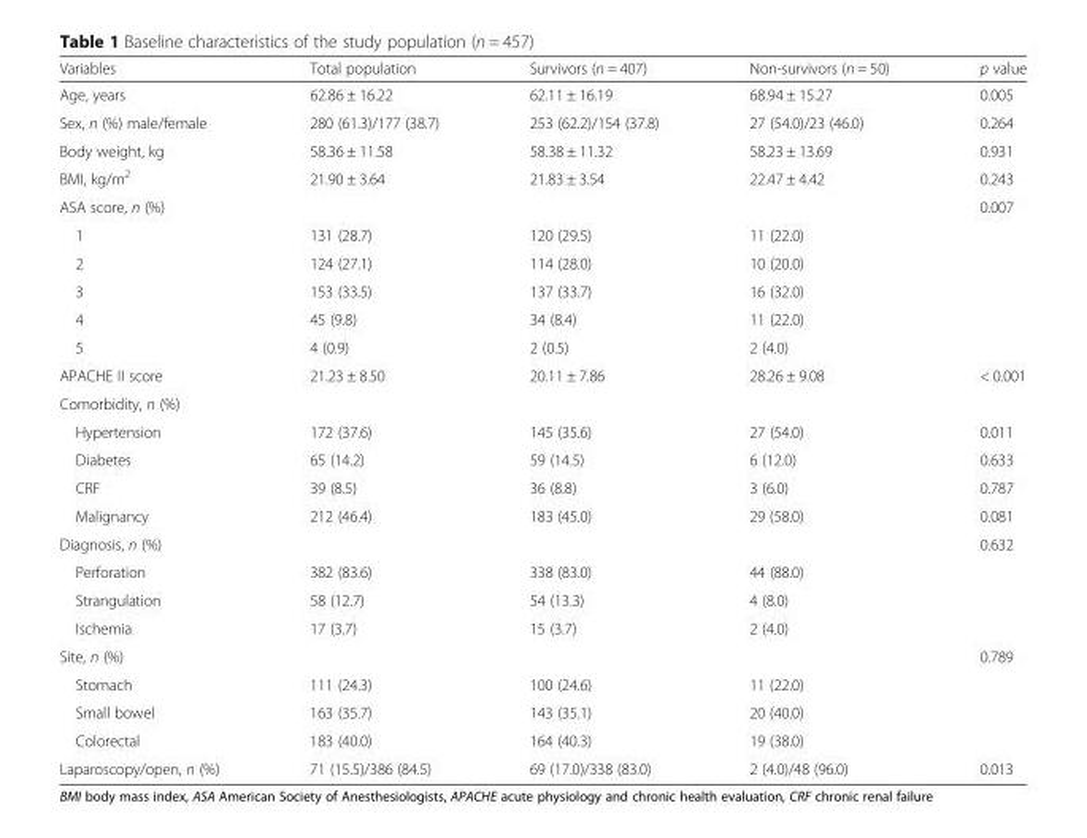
<table><thead><tr><td>Variables</td><td>Total population</td><td>Survivors (n = 407)</td><td>Non-survivors (n = 50)</td><td>p value</td></tr></thead><tbody><tr><td>Age, years</td><td>62.86 ± 16.22</td><td>62.11 ± 16.19</td><td>68.94 ± 15.27</td><td>0.005</td></tr><tr><td>Sex, n (%) male/female</td><td>280 (61.3)/177 (38.7)</td><td>253 (62.2)/154 (37.8)</td><td>27 (54.0)/23 (46.0)</td><td>0.264</td></tr><tr><td>Body weight, kg</td><td>58.36 ± 11.58</td><td>58.38 ± 11.32</td><td>58.23 ± 13.69</td><td>0.931</td></tr><tr><td>BMI, kg/m<sup>2</sup></td><td>21.90 ± 3.64</td><td>21.83 ± 3.54</td><td>22.47 ± 4.42</td><td>0.243</td></tr><tr><td>ASA score, n (%)</td><td></td><td></td><td></td><td>0.007</td></tr><tr><td>1</td><td>131 (28.7)</td><td>120 (29.5)</td><td>11 (22.0)</td><td></td></tr><tr><td>2</td><td>124 (27.1)</td><td>114 (28.0)</td><td>10 (20.0)</td><td></td></tr><tr><td>3</td><td>153 (33.5)</td><td>137 (33.7)</td><td>16 (32.0)</td><td></td></tr><tr><td>4</td><td>45 (9.8)</td><td>34 (8.4)</td><td>11 (22.0)</td><td></td></tr><tr><td>5</td><td>4 (0.9)</td><td>2 (0.5)</td><td>2 (4.0)</td><td></td></tr><tr><td>APACHE II score</td><td>21.23 ± 8.50</td><td>20.11 ± 7.86</td><td>28.26 ± 9.08</td><td>&lt; 0.001</td></tr><tr><td colspan="5">Comorbidity, n (%)</td></tr><tr><td>Hypertension</td><td>172 (37.6)</td><td>145 (35.6)</td><td>27 (54.0)</td><td>0.011</td></tr><tr><td>Diabetes</td><td>65 (14.2)</td><td>59 (14.5)</td><td>6 (12.0)</td><td>0.633</td></tr><tr><td>CRF</td><td>39 (8.5)</td><td>36 (8.8)</td><td>3 (6.0)</td><td>0.787</td></tr><tr><td>Malignancy</td><td>212 (46.4)</td><td>183 (45.0)</td><td>29 (58.0)</td><td>0.081</td></tr><tr><td>Diagnosis, n (%)</td><td></td><td></td><td></td><td>0.632</td></tr><tr><td>Perforation</td><td>382 (83.6)</td><td>338 (83.0)</td><td>44 (88.0)</td><td></td></tr><tr><td>Strangulation</td><td>58 (12.7)</td><td>54 (13.3)</td><td>4 (8.0)</td><td></td></tr><tr><td>Ischemia</td><td>17 (3.7)</td><td>15 (3.7)</td><td>2 (4.0)</td><td></td></tr><tr><td>Site, n (%)</td><td></td><td></td><td></td><td>0.789</td></tr><tr><td>Stomach</td><td>111 (24.3)</td><td>100 (24.6)</td><td>11 (22.0)</td><td></td></tr><tr><td>Small bowel</td><td>163 (35.7)</td><td>143 (35.1)</td><td>20 (40.0)</td><td></td></tr><tr><td>Colorectal</td><td>183 (40.0)</td><td>164 (40.3)</td><td>19 (38.0)</td><td></td></tr><tr><td>Laparoscopy/open, n (%)</td><td>71 (15.5)/386 (84.5)</td><td>69 (17.0)/338 (83.0)</td><td>2 (4.0)/48 (96.0)</td><td>0.013</td></tr></tbody></table>